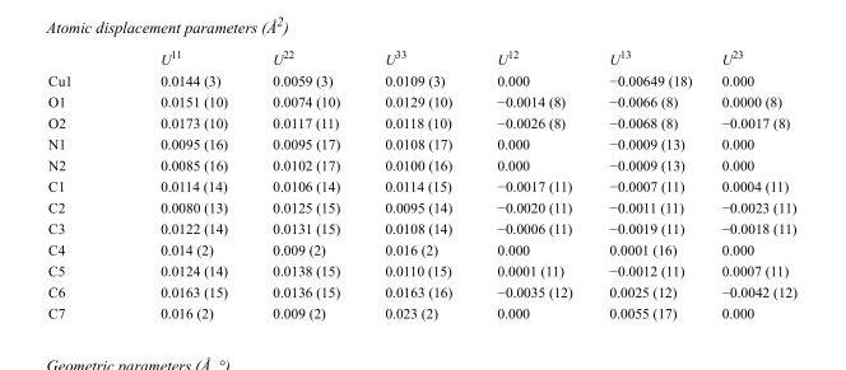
<table><thead><tr><td></td><td>U<sup>11</sup></td><td>U<sup>22</sup></td><td>U<sup>33</sup></td><td>U<sup>12</sup></td><td>U<sup>13</sup></td><td>U<sup>23</sup></td></tr></thead><tbody><tr><td>Cu1</td><td>0.0144 (3)</td><td>0.0059 (3)</td><td>0.0109 (3)</td><td>0.000</td><td>−0.00649 (18)</td><td>0.000</td></tr><tr><td>O1</td><td>0.0151 (10)</td><td>0.0074 (10)</td><td>0.0129 (10)</td><td>−0.0014 (8)</td><td>−0.0066 (8)</td><td>0.0000 (8)</td></tr><tr><td>O2</td><td>0.0173 (10)</td><td>0.0117 (11)</td><td>0.0118 (10)</td><td>−0.0026 (8)</td><td>−0.0068 (8)</td><td>−0.0017 (8)</td></tr><tr><td>N1</td><td>0.0095 (16)</td><td>0.0095 (17)</td><td>0.0108 (17)</td><td>0.000</td><td>−0.0009 (13)</td><td>0.000</td></tr><tr><td>N2</td><td>0.0085 (16)</td><td>0.0102 (17)</td><td>0.0100 (16)</td><td>0.000</td><td>−0.0009 (13)</td><td>0.000</td></tr><tr><td>C1</td><td>0.0114 (14)</td><td>0.0106 (14)</td><td>0.0114 (15)</td><td>−0.0017 (11)</td><td>−0.0007 (11)</td><td>0.0004 (11)</td></tr><tr><td>C2</td><td>0.0080 (13)</td><td>0.0125 (15)</td><td>0.0095 (14)</td><td>−0.0020 (11)</td><td>−0.0011 (11)</td><td>−0.0023 (11)</td></tr><tr><td>C3</td><td>0.0122 (14)</td><td>0.0131 (15)</td><td>0.0108 (14)</td><td>−0.0006 (11)</td><td>−0.0019 (11)</td><td>−0.0018 (11)</td></tr><tr><td>C4</td><td>0.014 (2)</td><td>0.009 (2)</td><td>0.016 (2)</td><td>0.000</td><td>0.0001 (16)</td><td>0.000</td></tr><tr><td>C5</td><td>0.0124 (14)</td><td>0.0138 (15)</td><td>0.0110 (15)</td><td>0.0001 (11)</td><td>−0.0012 (11)</td><td>0.0007 (11)</td></tr><tr><td>C6</td><td>0.0163 (15)</td><td>0.0136 (15)</td><td>0.0163 (16)</td><td>−0.0035 (12)</td><td>0.0025 (12)</td><td>−0.0042 (12)</td></tr><tr><td>C7</td><td>0.016 (2)</td><td>0.009 (2)</td><td>0.023 (2)</td><td>0.000</td><td>0.0055 (17)</td><td>0.000</td></tr></tbody></table>